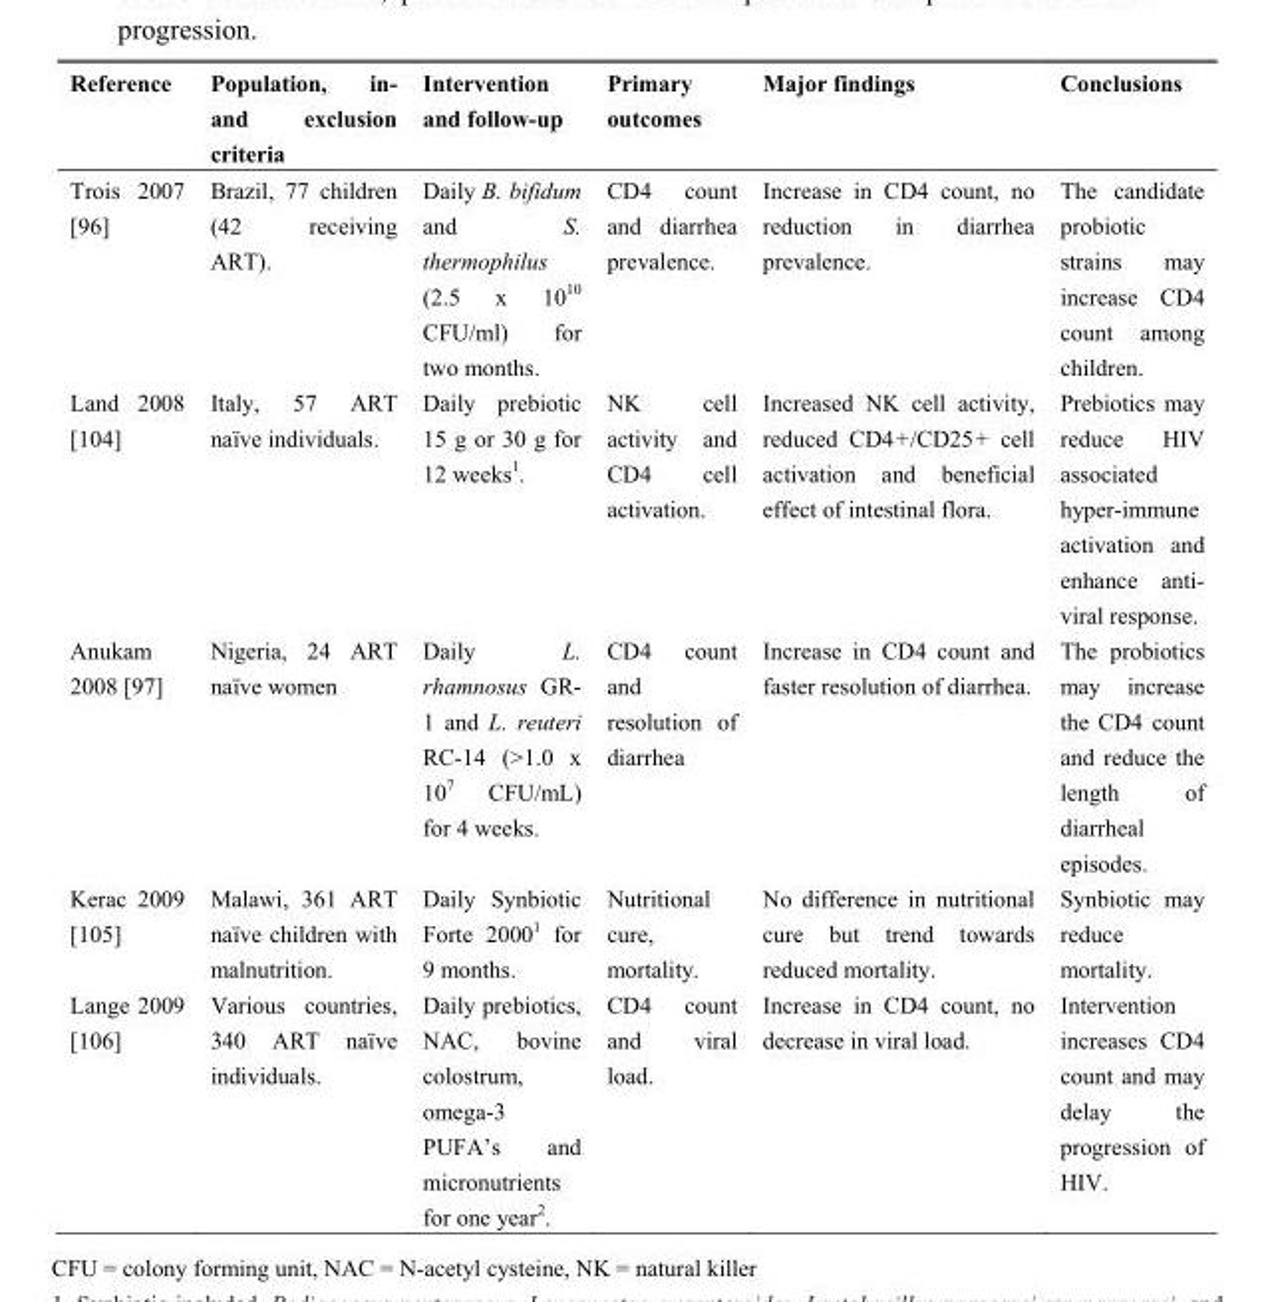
<table><thead><tr><td>Reference</td><td>Population, in- and exclusion criteria</td><td>Intervention and follow-up</td><td>Primary outcomes</td><td>Major findings</td><td>Conclusions</td></tr></thead><tbody><tr><td>Trois 2007 [96]</td><td>Brazil, 77 children (42 receiving ART).</td><td>Daily B. bifidum and S. thermophilus (2.5 x 10<sup>10</sup> CFU/ml) for two months.</td><td>CD4 count and diarrhea prevalence.</td><td>Increase in CD4 count, no reduction in diarrhea prevalence.</td><td>The candidate probiotic strains may increase CD4 count among children.</td></tr><tr><td>Land 2008 [104]</td><td>Italy, 57 ART naïve individuals.</td><td>Daily prebiotic 15 g or 30 g for 12 weeks<sup>1</sup>.</td><td>NK cell activity and CD4 cell activation.</td><td>Increased NK cell activity, reduced CD4+/CD25+ cell activation and beneficial effect of intestinal flora.</td><td>Prebiotics may reduce HIV associated hyper-immune activation and enhance anti- viral response.</td></tr><tr><td>Anukam 2008 [97]</td><td>Nigeria, 24 ART naïve women</td><td>Daily L. rhamnosus GR- 1 and L. reuteri RC-14 (&gt;1.0 x 10<sup>7</sup> CFU/mL) for 4 weeks.</td><td>CD4 count and resolution of diarrhea</td><td>Increase in CD4 count and faster resolution of diarrhea.</td><td>The probiotics may increase the CD4 count and reduce the length of diarrheal episodes.</td></tr><tr><td>Kerac 2009 [105]</td><td>Malawi, 361 ART naïve children with malnutrition.</td><td>Daily Synbiotic Forte 2000<sup>1</sup> for 9 months.</td><td>Nutritional cure, mortality.</td><td>No difference in nutritional cure but trend towards reduced mortality.</td><td>Synbiotic may reduce mortality.</td></tr><tr><td>Lange 2009 [106]</td><td>Various countries, 340 ART naïve individuals.</td><td>Daily prebiotics, NAC, bovine colostrum, omega-3 PUFA’s and micronutrients for one year<sup>2</sup>.</td><td>CD4 count and viral load.</td><td>Increase in CD4 count, no decrease in viral load.</td><td>Intervention increases CD4 count and may delay the progression of HIV.</td></tr></tbody></table>